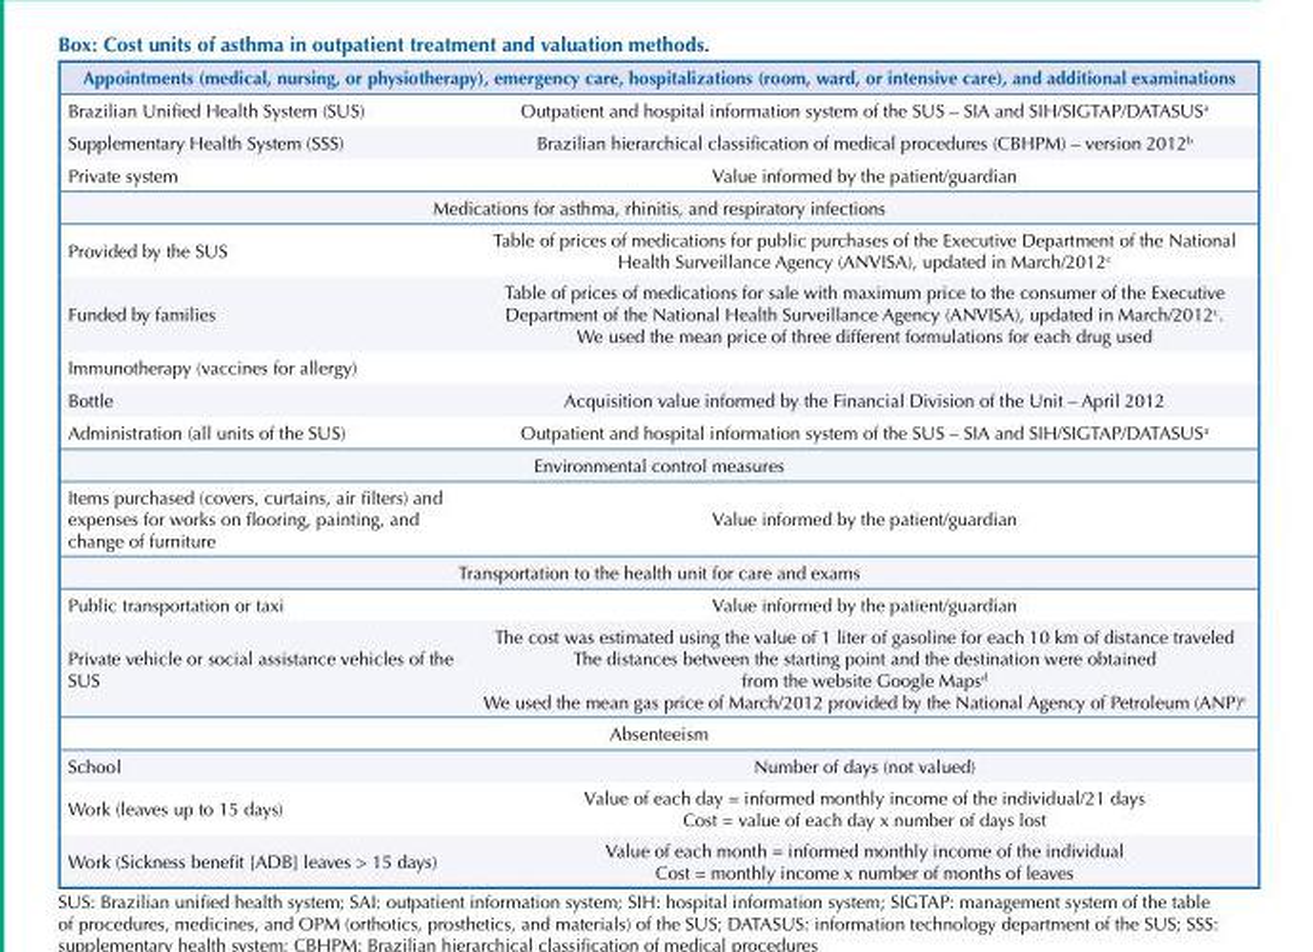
<table><thead><tr><td colspan="2">Appointments (medical, nursing, or physiotherapy), emergency care, hospitalizations (room, ward, or intensive care), and additional examinations</td></tr><tr><td>Brazilian Unified Health System (SUS)</td><td>Outpatient and hospital information system of the SUS – SIA and SIH/SIGTAP/DATASUS<sup>a</sup></td></tr></thead><tbody><tr><td>Supplementary Health System (SSS)</td><td>Brazilian hierarchical classification of medical procedures (CBHPM) – version 2012<sup>b</sup></td></tr><tr><td>Private system</td><td>Value informed by the patient/guardian</td></tr><tr><td colspan="2">Medications for asthma, rhinitis, and respiratory infections</td></tr><tr><td>Provided by the SUS</td><td>Table of prices of medications for public purchases of the Executive Department of the National Health Surveillance Agency (ANVISA), updated in March/2012<sup>c</sup></td></tr><tr><td>Funded by families</td><td>Table of prices of medications for sale with maximum price to the consumer of the Executive Department of the National Health Surveillance Agency (ANVISA), updated in March/2012<sup>c</sup>. We used the mean price of three different formulations for each drug used</td></tr><tr><td colspan="2">Immunotherapy (vaccines for allergy)</td></tr><tr><td>Bottle</td><td>Acquisition value informed by the Financial Division of the Unit – April 2012</td></tr><tr><td>Administration (all units of the SUS)</td><td>Outpatient and hospital information system of the SUS – SIA and SIH/SIGTAP/DATASUS<sup>a</sup></td></tr><tr><td colspan="2">Environmental control measures</td></tr><tr><td>Items purchased (covers, curtains, air filters) and expenses for works on flooring, painting, and change of furniture</td><td>Value informed by the patient/guardian</td></tr><tr><td colspan="2">Transportation to the health unit for care and exams</td></tr><tr><td>Public transportation or taxi</td><td>Value informed by the patient/guardian</td></tr><tr><td>Private vehicle or social assistance vehicles of the SUS</td><td>The cost was estimated using the value of 1 liter of gasoline for each 10 km of distance traveled The distances between the starting point and the destination were obtained from the website Google Maps<sup>d</sup> We used the mean gas price of March/2012 provided by the National Agency of Petroleum (ANP)<sup>e</sup></td></tr><tr><td colspan="2">Absenteeism</td></tr><tr><td>School</td><td>Number of days (not valued)</td></tr><tr><td>Work (leaves up to 15 days)</td><td>Value of each day = informed monthly income of the individual/21 days Cost = value of each day x number of days lost</td></tr><tr><td>Work (Sickness benefit [ADB] leaves &gt; 15 days)</td><td>Value of each month = informed monthly income of the individual Cost = monthly income x number of months of leaves</td></tr></tbody></table>